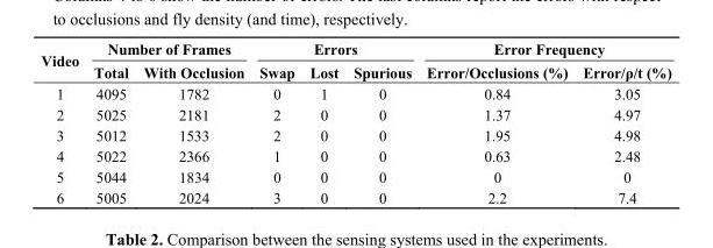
<table><thead><tr><td rowspan="2">Video</td><td colspan="2">Number of Frames</td><td colspan="3">Errors</td><td colspan="2">Error Frequency</td></tr><tr><td>Total</td><td>With Occlusion</td><td>Swap</td><td>Lost</td><td>Spurious</td><td>Error/Occlusions (%)</td><td>Error/ρ/t (%)</td></tr></thead><tbody><tr><td>1</td><td>4095</td><td>1782</td><td>0</td><td>1</td><td>0</td><td>0.84</td><td>3.05</td></tr><tr><td>2</td><td>5025</td><td>2181</td><td>2</td><td>0</td><td>0</td><td>1.37</td><td>4.97</td></tr><tr><td>3</td><td>5012</td><td>1533</td><td>2</td><td>0</td><td>0</td><td>1.95</td><td>4.98</td></tr><tr><td>4</td><td>5022</td><td>2366</td><td>1</td><td>0</td><td>0</td><td>0.63</td><td>2.48</td></tr><tr><td>5</td><td>5044</td><td>1834</td><td>0</td><td>0</td><td>0</td><td>0</td><td>0</td></tr><tr><td>6</td><td>5005</td><td>2024</td><td>3</td><td>0</td><td>0</td><td>2.2</td><td>7.4</td></tr></tbody></table>